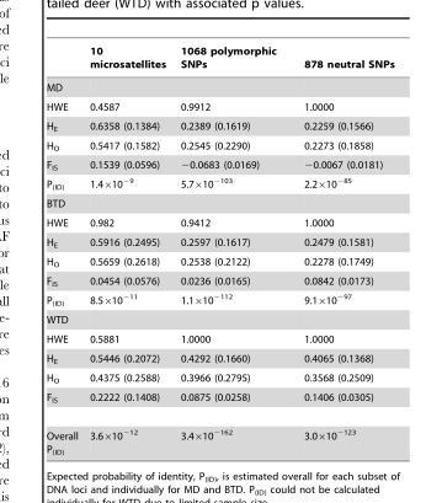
<table><thead><tr><td></td><td>10 microsatellites</td><td>1068 polymorphic SNPs</td><td>878 neutral SNPs</td></tr></thead><tbody><tr><td colspan="4">MD</td></tr><tr><td>HWE</td><td>0.4587</td><td>0.9912</td><td>1.0000</td></tr><tr><td>H<sub>E</sub></td><td>0.6358 (0.1384)</td><td>0.2389 (0.1619)</td><td>0.2259 (0.1566)</td></tr><tr><td>H<sub>O</sub></td><td>0.5417 (0.1582)</td><td>0.2545 (0.2290)</td><td>0.2273 (0.1858)</td></tr><tr><td>F<sub>IS</sub></td><td>0.1539 (0.0596)</td><td>−0.0683 (0.0169)</td><td>−0.0067 (0.0181)</td></tr><tr><td>P<sub>(ID)</sub></td><td>1.4×10<sup>−9</sup></td><td>5.7×10<sup>−103</sup></td><td>2.2×10<sup>−85</sup></td></tr><tr><td colspan="4">BTD</td></tr><tr><td>HWE</td><td>0.982</td><td>0.9412</td><td>1.0000</td></tr><tr><td>H<sub>E</sub></td><td>0.5916 (0.2495)</td><td>0.2597 (0.1617)</td><td>0.2479 (0.1581)</td></tr><tr><td>H<sub>O</sub></td><td>0.5659 (0.2618)</td><td>0.2538 (0.2122)</td><td>0.2278 (0.1749)</td></tr><tr><td>F<sub>IS</sub></td><td>0.0454 (0.0576)</td><td>0.0236 (0.0165)</td><td>0.0842 (0.0173)</td></tr><tr><td>P<sub>(ID)</sub></td><td>8.5×10<sup>−11</sup></td><td>1.1×10<sup>−112</sup></td><td>9.1×10<sup>−97</sup></td></tr><tr><td colspan="4">WTD</td></tr><tr><td>HWE</td><td>0.5881</td><td>1.0000</td><td>1.0000</td></tr><tr><td>H<sub>E</sub></td><td>0.5446 (0.2072)</td><td>0.4292 (0.1660)</td><td>0.4065 (0.1368)</td></tr><tr><td>H<sub>O</sub></td><td>0.4375 (0.2588)</td><td>0.3966 (0.2795)</td><td>0.3568 (0.2509)</td></tr><tr><td>F<sub>IS</sub></td><td>0.2222 (0.1408)</td><td>0.0875 (0.0258)</td><td>0.1406 (0.0305)</td></tr><tr><td>Overall P<sub>(ID)</sub></td><td>3.6×10<sup>−12</sup></td><td>3.4×10<sup>−162</sup></td><td>3.0×10<sup>−123</sup></td></tr></tbody></table>